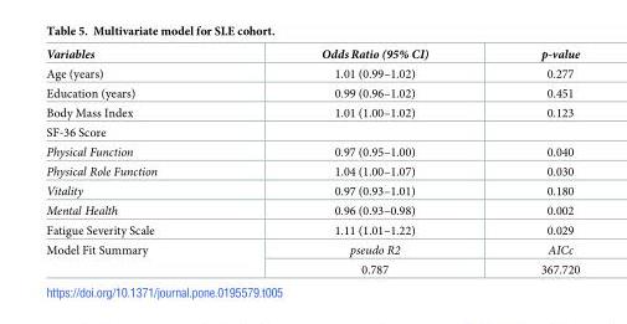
<table><thead><tr><td>Variables</td><td>Odds Ratio (95% CI)</td><td>p-value</td></tr></thead><tbody><tr><td>Age (years)</td><td>1.01 (0.99–1.02)</td><td>0.277</td></tr><tr><td>Education (years)</td><td>0.99 (0.96–1.02)</td><td>0.451</td></tr><tr><td>Body Mass Index</td><td>1.01 (1.00–1.02)</td><td>0.123</td></tr><tr><td colspan="3">SF-36 Score</td></tr><tr><td>Physical Function</td><td>0.97 (0.95–1.00)</td><td>0.040</td></tr><tr><td>Physical Role Function</td><td>1.04 (1.00–1.07)</td><td>0.030</td></tr><tr><td>Vitality</td><td>0.97 (0.93–1.01)</td><td>0.180</td></tr><tr><td>Mental Health</td><td>0.96 (0.93–0.98)</td><td>0.002</td></tr><tr><td>Fatigue Severity Scale</td><td>1.11 (1.01–1.22)</td><td>0.029</td></tr><tr><td rowspan="2">Model Fit Summary</td><td>pseudo R2</td><td>AICc</td></tr><tr><td>0.787</td><td>367.720</td></tr></tbody></table>